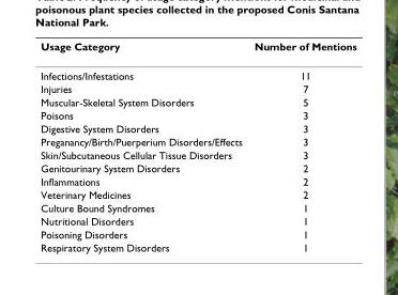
<table><thead><tr><td>Usage Category</td><td>Number of Mentions</td></tr></thead><tbody><tr><td>Infections/Infestations</td><td>11</td></tr><tr><td>Injuries</td><td>7</td></tr><tr><td>Muscular-Skeletal System Disorders</td><td>5</td></tr><tr><td>Poisons</td><td>3</td></tr><tr><td>Digestive System Disorders</td><td>3</td></tr><tr><td>Preganancy/Birth/Puerperium Disorders/Effects</td><td>3</td></tr><tr><td>Skin/Subcutaneous Cellular Tissue Disorders</td><td>3</td></tr><tr><td>Genitourinary System Disorders</td><td>2</td></tr><tr><td>Inflammations</td><td>2</td></tr><tr><td>Veterinary Medicines</td><td>2</td></tr><tr><td>Culture Bound Syndromes</td><td>1</td></tr><tr><td>Nutritional Disorders</td><td>1</td></tr><tr><td>Poisoning Disorders</td><td>1</td></tr><tr><td>Respiratory System Disorders</td><td>1</td></tr></tbody></table>